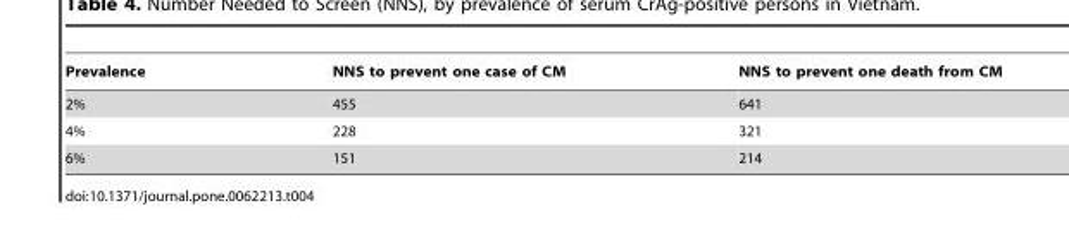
<table><thead><tr><td>Prevalence</td><td>NNS to prevent one case of CM</td><td>NNS to prevent one death from CM</td></tr></thead><tbody><tr><td>2%</td><td>455</td><td>641</td></tr><tr><td>4%</td><td>228</td><td>321</td></tr><tr><td>6%</td><td>151</td><td>214</td></tr></tbody></table>